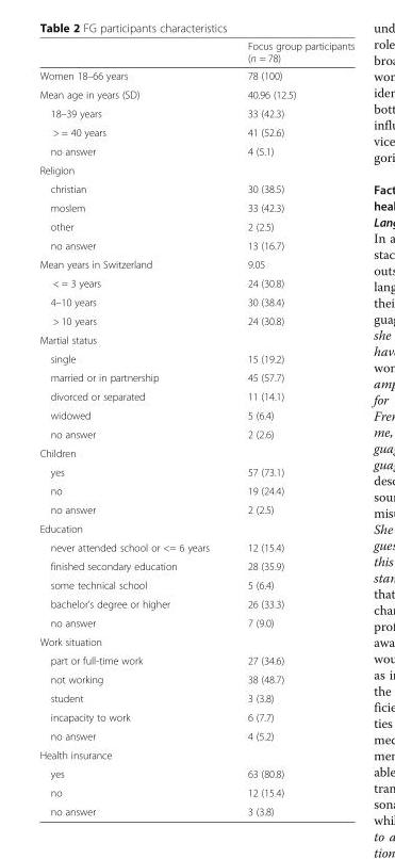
<table><thead><tr><td></td><td>Focus group participants (n = 78)</td></tr></thead><tbody><tr><td>Women 18–66 years</td><td>78 (100)</td></tr><tr><td>Mean age in years (SD)</td><td>40.96 (12.5)</td></tr><tr><td>18–39 years</td><td>33 (42.3)</td></tr><tr><td>&gt; = 40 years</td><td>41 (52.6)</td></tr><tr><td>no answer</td><td>4 (5.1)</td></tr><tr><td colspan="2">Religion</td></tr><tr><td>christian</td><td>30 (38.5)</td></tr><tr><td>moslem</td><td>33 (42.3)</td></tr><tr><td>other</td><td>2 (2.5)</td></tr><tr><td>no answer</td><td>13 (16.7)</td></tr><tr><td>Mean years in Switzerland</td><td>9.05</td></tr><tr><td>&lt; = 3 years</td><td>24 (30.8)</td></tr><tr><td>4–10 years</td><td>30 (38.4)</td></tr><tr><td>&gt; 10 years</td><td>24 (30.8)</td></tr><tr><td colspan="2">Martial status</td></tr><tr><td>single</td><td>15 (19.2)</td></tr><tr><td>married or in partnership</td><td>45 (57.7)</td></tr><tr><td>divorced or separated</td><td>11 (14.1)</td></tr><tr><td>widowed</td><td>5 (6.4)</td></tr><tr><td>no answer</td><td>2 (2.6)</td></tr><tr><td colspan="2">Children</td></tr><tr><td>yes</td><td>57 (73.1)</td></tr><tr><td>no</td><td>19 (24.4)</td></tr><tr><td>no answer</td><td>2 (2.5)</td></tr><tr><td colspan="2">Education</td></tr><tr><td>never attended school or &lt;= 6 years</td><td>12 (15.4)</td></tr><tr><td>finished secondary education</td><td>28 (35.9)</td></tr><tr><td>some technical school</td><td>5 (6.4)</td></tr><tr><td>bachelor’s degree or higher</td><td>26 (33.3)</td></tr><tr><td>no answer</td><td>7 (9.0)</td></tr><tr><td colspan="2">Work situation</td></tr><tr><td>part or full-time work</td><td>27 (34.6)</td></tr><tr><td>not working</td><td>38 (48.7)</td></tr><tr><td>student</td><td>3 (3.8)</td></tr><tr><td>incapacity to work</td><td>6 (7.7)</td></tr><tr><td>no answer</td><td>4 (5.2)</td></tr><tr><td colspan="2">Health insurance</td></tr><tr><td>yes</td><td>63 (80.8)</td></tr><tr><td>no</td><td>12 (15.4)</td></tr><tr><td>no answer</td><td>3 (3.8)</td></tr></tbody></table>